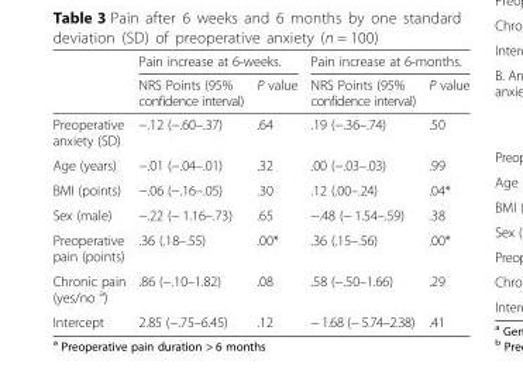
<table><thead><tr><td rowspan="2"></td><td colspan="2">Pain increase at 6-weeks.</td><td colspan="2">Pain increase at 6-months.</td></tr><tr><td>NRS Points (95% confidence interval)</td><td>P value</td><td>NRS Points (95% confidence interval)</td><td>P value</td></tr></thead><tbody><tr><td>Preoperative anxiety (SD)</td><td>−.12 (−.60–.37)</td><td>.64</td><td>.19 (−.36–.74)</td><td>.50</td></tr><tr><td>Age (years)</td><td>−.01 (−.04–.01)</td><td>.32</td><td>.00 (−.03–.03)</td><td>.99</td></tr><tr><td>BMI (points)</td><td>−.06 (−.16–.05)</td><td>.30</td><td>.12 (.00–.24)</td><td>.04*</td></tr><tr><td>Sex (male)</td><td>−.22 (− 1.16–.73)</td><td>.65</td><td>−.48 (− 1.54–.59)</td><td>.38</td></tr><tr><td>Preoperative pain (points)</td><td>.36 (.18–.55)</td><td>.00*</td><td>.36 (.15–.56)</td><td>.00*</td></tr><tr><td>Chronic pain (yes/no <sup>a</sup>)</td><td>.86 (−.10–1.82)</td><td>.08</td><td>.58 (−.50–1.66)</td><td>.29</td></tr><tr><td>Intercept</td><td>2.85 (−.75–6.45)</td><td>.12</td><td>− 1.68 (− 5.74–2.38)</td><td>.41</td></tr></tbody></table>